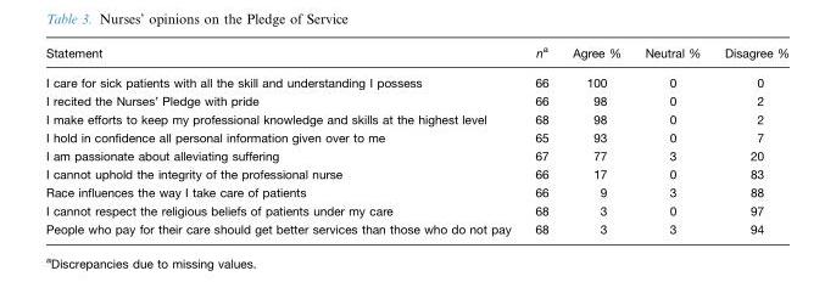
<table><thead><tr><td>Statement</td><td>n<sup>a</sup></td><td>Agree %</td><td>Neutral %</td><td>Disagree %</td></tr></thead><tbody><tr><td>I care for sick patients with all the skill and understanding I possess</td><td>66</td><td>100</td><td>0</td><td>0</td></tr><tr><td>I recited the Nurses’ Pledge with pride</td><td>66</td><td>98</td><td>0</td><td>2</td></tr><tr><td>I make efforts to keep my professional knowledge and skills at the highest level</td><td>68</td><td>98</td><td>0</td><td>2</td></tr><tr><td>I hold in confidence all personal information given over to me</td><td>65</td><td>93</td><td>0</td><td>7</td></tr><tr><td>I am passionate about alleviating suffering</td><td>67</td><td>77</td><td>3</td><td>20</td></tr><tr><td>I cannot uphold the integrity of the professional nurse</td><td>66</td><td>17</td><td>0</td><td>83</td></tr><tr><td>Race influences the way I take care of patients</td><td>66</td><td>9</td><td>3</td><td>88</td></tr><tr><td>I cannot respect the religious beliefs of patients under my care</td><td>68</td><td>3</td><td>0</td><td>97</td></tr><tr><td>People who pay for their care should get better services than those who do not pay</td><td>68</td><td>3</td><td>3</td><td>94</td></tr></tbody></table>